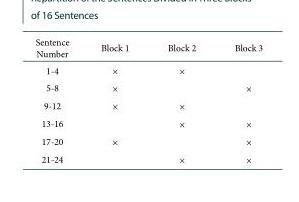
<table><thead><tr><td>Sentence Number</td><td>Block 1</td><td>Block 2</td><td>Block 3</td></tr></thead><tbody><tr><td>1-4</td><td>×</td><td>×</td><td></td></tr><tr><td>5-8</td><td>×</td><td></td><td>×</td></tr><tr><td>9-12</td><td>×</td><td>×</td><td></td></tr><tr><td>13-16</td><td></td><td>×</td><td>×</td></tr><tr><td>17-20</td><td>×</td><td></td><td>×</td></tr><tr><td>21-24</td><td></td><td>×</td><td>×</td></tr></tbody></table>